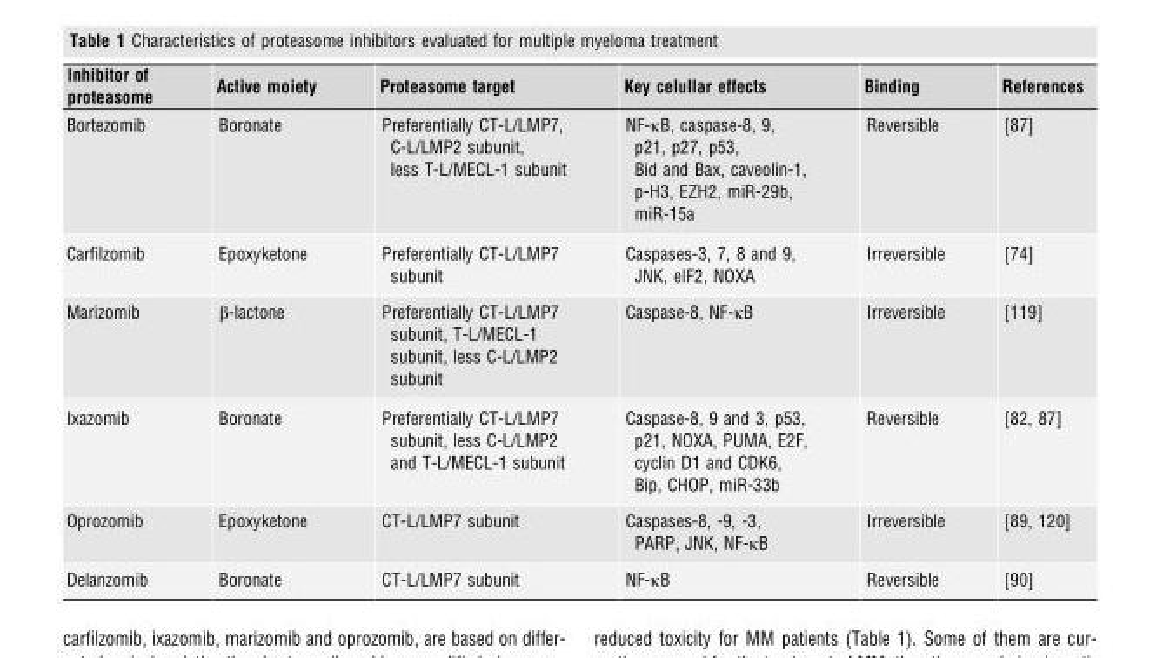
<table><thead><tr><td>Inhibitor of proteasome</td><td>Active moiety</td><td>Proteasome target</td><td>Key celullar effects</td><td>Binding</td><td>References</td></tr></thead><tbody><tr><td>Bortezomib</td><td>Boronate</td><td>Preferentially CT-L/LMP7, C-L/LMP2 subunit, less T-L/MECL-1 subunit</td><td>NF-κB, caspase-8, 9, p21, p27, p53, Bid and Bax, caveolin-1, p-H3, EZH2, miR-29b, miR-15a</td><td>Reversible</td><td>[87]</td></tr><tr><td>Carfilzomib</td><td>Epoxyketone</td><td>Preferentially CT-L/LMP7 subunit</td><td>Caspases-3, 7, 8 and 9, JNK, eIF2, NOXA</td><td>Irreversible</td><td>[74]</td></tr><tr><td>Marizomib</td><td>β-lactone</td><td>Preferentially CT-L/LMP7 subunit, T-L/MECL-1 subunit, less C-L/LMP2 subunit</td><td>Caspase-8, NF-κB</td><td>Irreversible</td><td>[119]</td></tr><tr><td>Ixazomib</td><td>Boronate</td><td>Preferentially CT-L/LMP7 subunit, less C-L/LMP2 and T-L/MECL-1 subunit</td><td>Caspase-8, 9 and 3, p53, p21, NOXA, PUMA, E2F, cyclin D1 and CDK6, Bip, CHOP, miR-33b</td><td>Reversible</td><td>[82, 87]</td></tr><tr><td>Oprozomib</td><td>Epoxyketone</td><td>CT-L/LMP7 subunit</td><td>Caspases-8, -9, -3, PARP, JNK, NF-κB</td><td>Irreversible</td><td>[89, 120]</td></tr><tr><td>Delanzomib</td><td>Boronate</td><td>CT-L/LMP7 subunit</td><td>NF-κB</td><td>Reversible</td><td>[90]</td></tr></tbody></table>